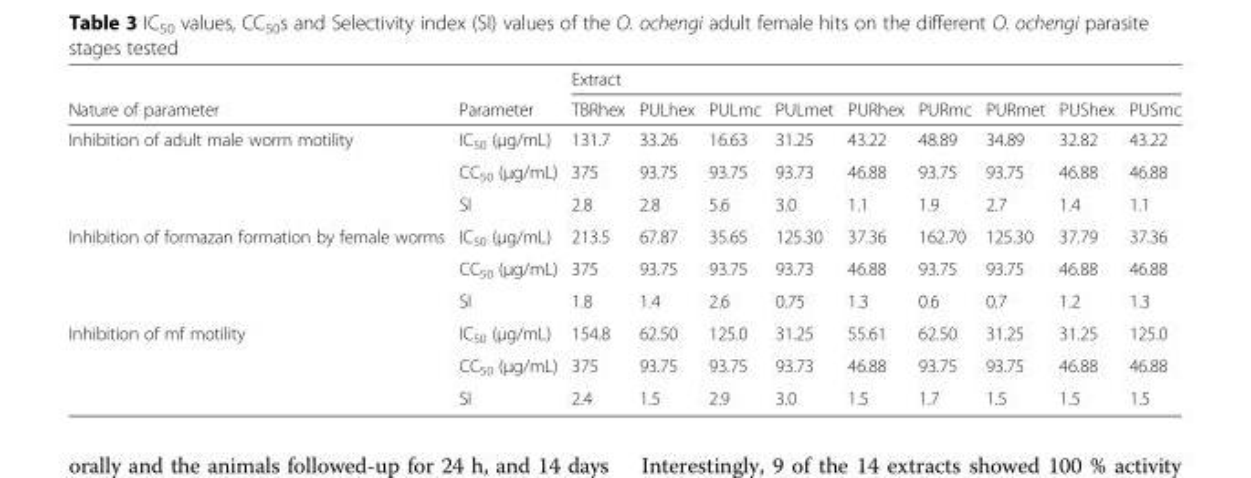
<table><thead><tr><td rowspan="2">Nature of parameter</td><td rowspan="2">Parameter</td><td colspan="9">Extract</td></tr><tr><td>TBRhex</td><td>PULhex</td><td>PULmc</td><td>PULmet</td><td>PURhex</td><td>PURmc</td><td>PURmet</td><td>PUShex</td><td>PUSmc</td></tr></thead><tbody><tr><td rowspan="3">Inhibition of adult male worm motility</td><td>IC<sub>50</sub> (μg/mL)</td><td>131.7</td><td>33.26</td><td>16.63</td><td>31.25</td><td>43.22</td><td>48.89</td><td>34.89</td><td>32.82</td><td>43.22</td></tr><tr><td>CC<sub>50</sub> (μg/mL)</td><td>375</td><td>93.75</td><td>93.75</td><td>93.73</td><td>46.88</td><td>93.75</td><td>93.75</td><td>46.88</td><td>46.88</td></tr><tr><td>SI</td><td>2.8</td><td>2.8</td><td>5.6</td><td>3.0</td><td>1.1</td><td>1.9</td><td>2.7</td><td>1.4</td><td>1.1</td></tr><tr><td rowspan="3">Inhibition of formazan formation by female worms</td><td>IC<sub>50</sub> (μg/mL)</td><td>213.5</td><td>67.87</td><td>35.65</td><td>125.30</td><td>37.36</td><td>162.70</td><td>125.30</td><td>37.79</td><td>37.36</td></tr><tr><td>CC<sub>50</sub> (μg/mL)</td><td>375</td><td>93.75</td><td>93.75</td><td>93.73</td><td>46.88</td><td>93.75</td><td>93.75</td><td>46.88</td><td>46.88</td></tr><tr><td>SI</td><td>1.8</td><td>1.4</td><td>2.6</td><td>0.75</td><td>1.3</td><td>0.6</td><td>0.7</td><td>1.2</td><td>1.3</td></tr><tr><td rowspan="3">Inhibition of mf motility</td><td>IC<sub>50</sub> (μg/mL)</td><td>154.8</td><td>62.50</td><td>125.0</td><td>31.25</td><td>55.61</td><td>62.50</td><td>31.25</td><td>31.25</td><td>125.0</td></tr><tr><td>CC<sub>50</sub> (μg/mL)</td><td>375</td><td>93.75</td><td>93.75</td><td>93.73</td><td>46.88</td><td>93.75</td><td>93.75</td><td>46.88</td><td>46.88</td></tr><tr><td>SI</td><td>2.4</td><td>1.5</td><td>2.9</td><td>3.0</td><td>1.5</td><td>1.7</td><td>1.5</td><td>1.5</td><td>1.5</td></tr></tbody></table>